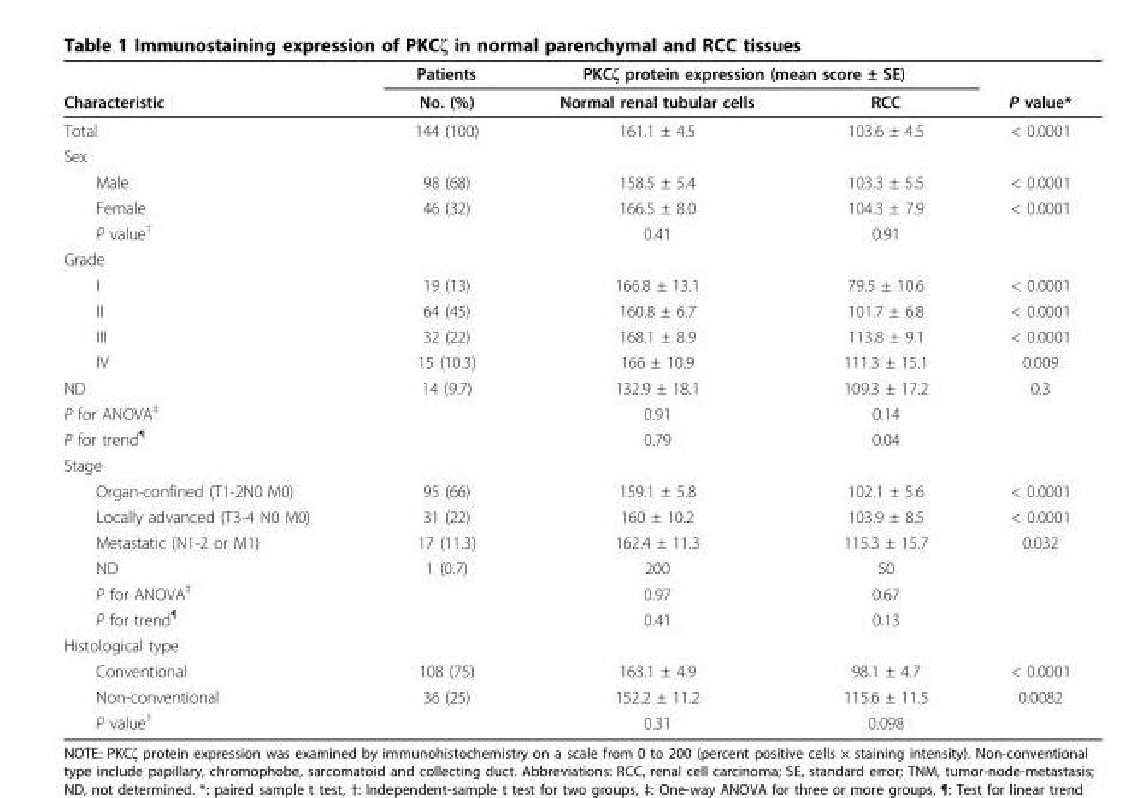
<table><thead><tr><td rowspan="2">Characteristic</td><td rowspan="2">Patients No. (%)</td><td colspan="2">PKCζ protein expression (mean score ± SE)</td><td rowspan="2">P value*</td></tr><tr><td>Normal renal tubular cells</td><td>RCC</td></tr></thead><tbody><tr><td>Total</td><td>144 (100)</td><td>161.1 ± 4.5</td><td>103.6 ± 4.5</td><td>&lt; 0.0001</td></tr><tr><td colspan="5">Sex</td></tr><tr><td>Male</td><td>98 (68)</td><td>158.5 ± 5.4</td><td>103.3 ± 5.5</td><td>&lt; 0.0001</td></tr><tr><td>Female</td><td>46 (32)</td><td>166.5 ± 8.0</td><td>104.3 ± 7.9</td><td>&lt; 0.0001</td></tr><tr><td>P value<sup>†</sup></td><td></td><td>0.41</td><td>0.91</td><td></td></tr><tr><td colspan="5">Grade</td></tr><tr><td>I</td><td>19 (13)</td><td>166.8 ± 13.1</td><td>79.5 ± 10.6</td><td>&lt; 0.0001</td></tr><tr><td>II</td><td>64 (45)</td><td>160.8 ± 6.7</td><td>101.7 ± 6.8</td><td>&lt; 0.0001</td></tr><tr><td>III</td><td>32 (22)</td><td>168.1 ± 8.9</td><td>113.8 ± 9.1</td><td>&lt; 0.0001</td></tr><tr><td>IV</td><td>15 (10.3)</td><td>166 ± 10.9</td><td>111.3 ± 15.1</td><td>0.009</td></tr><tr><td>ND</td><td>14 (9.7)</td><td>132.9 ± 18.1</td><td>109.3 ± 17.2</td><td>0.3</td></tr><tr><td>P for ANOVA<sup>‡</sup></td><td></td><td>0.91</td><td>0.14</td><td></td></tr><tr><td>P for trend<sup>¶</sup></td><td></td><td>0.79</td><td>0.04</td><td></td></tr><tr><td colspan="5">Stage</td></tr><tr><td>Organ-confined (T1-2N0 M0)</td><td>95 (66)</td><td>159.1 ± 5.8</td><td>102.1 ± 5.6</td><td>&lt; 0.0001</td></tr><tr><td>Locally advanced (T3-4 N0 M0)</td><td>31 (22)</td><td>160 ± 10.2</td><td>103.9 ± 8.5</td><td>&lt; 0.0001</td></tr><tr><td>Metastatic (N1-2 or M1)</td><td>17 (11.3)</td><td>162.4 ± 11.3</td><td>115.3 ± 15.7</td><td>0.032</td></tr><tr><td>ND</td><td>1 (0.7)</td><td>200</td><td>50</td><td></td></tr><tr><td>P for ANOVA<sup>‡</sup></td><td></td><td>0.97</td><td>0.67</td><td></td></tr><tr><td>P for trend<sup>¶</sup></td><td></td><td>0.41</td><td>0.13</td><td></td></tr><tr><td colspan="5">Histological type</td></tr><tr><td>Conventional</td><td>108 (75)</td><td>163.1 ± 4.9</td><td>98.1 ± 4.7</td><td>&lt; 0.0001</td></tr><tr><td>Non-conventional</td><td>36 (25)</td><td>152.2 ± 11.2</td><td>115.6 ± 11.5</td><td>0.0082</td></tr><tr><td>P value<sup>†</sup></td><td></td><td>0.31</td><td>0.098</td><td></td></tr></tbody></table>